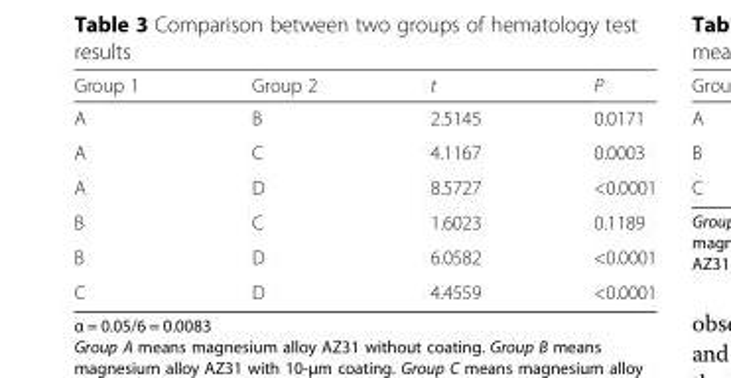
<table><thead><tr><td>Group 1</td><td>Group 2</td><td>t</td><td>P</td></tr></thead><tbody><tr><td>A</td><td>B</td><td>2.5145</td><td>0.0171</td></tr><tr><td>A</td><td>C</td><td>4.1167</td><td>0.0003</td></tr><tr><td>A</td><td>D</td><td>8.5727</td><td>&lt;0.0001</td></tr><tr><td>B</td><td>C</td><td>1.6023</td><td>0.1189</td></tr><tr><td>B</td><td>D</td><td>6.0582</td><td>&lt;0.0001</td></tr><tr><td>C</td><td>D</td><td>4.4559</td><td>&lt;0.0001</td></tr></tbody></table>